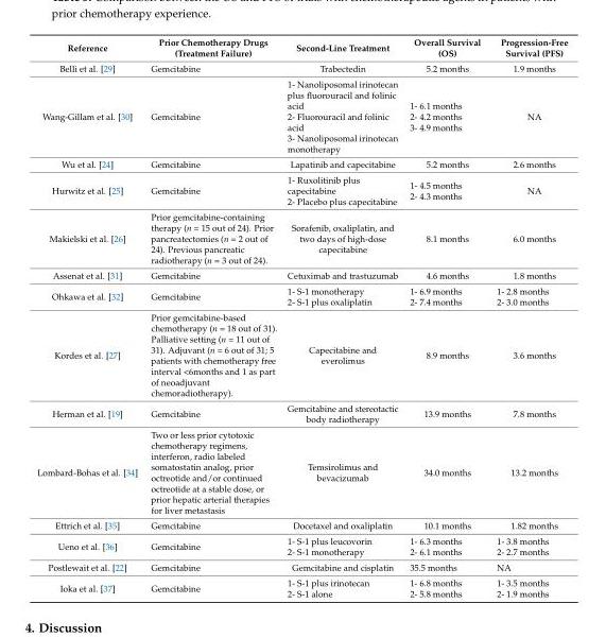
<table><thead><tr><td>Reference</td><td>Prior Chemotherapy Drugs (Treatment Failure)</td><td>Second-Line Treatment</td><td>Overall Survival (OS)</td><td>Progression-Free Survival (PFS)</td></tr></thead><tbody><tr><td>Belli et al. [29]</td><td>Gemcitabine</td><td>Trabectedin</td><td>5.2 months</td><td>1.9 months</td></tr><tr><td>Wang-Gillam et al. [30]</td><td>Gemcitabine</td><td>1- Nanoliposomal irinotecan plus fluorouracil and folinic acid 2- Fluorouracil and folinic acid 3- Nanoliposomal irinotecan monotherapy</td><td>1- 6.1 months 2- 4.2 months 3- 4.9 months</td><td>NA</td></tr><tr><td>Wu et al. [24]</td><td>Gemcitabine</td><td>Lapatinib and capecitabine</td><td>5.2 months</td><td>2.6 months</td></tr><tr><td>Hurwitz et al. [25]</td><td>Gemcitabine</td><td>1- Ruxolitinib plus capecitabine 2- Placebo plus capecitabine</td><td>1- 4.5 months 2- 4.3 months</td><td>NA</td></tr><tr><td>Makielski et al. [26]</td><td>Prior gemcitabine-containing therapy (n = 15 out of 24). Prior pancreatectomies (n = 2 out of 24). Previous pancreatic radiotherapy (n = 3 out of 24).</td><td>Sorafenib, oxaliplatin, and two days of high-dose capecitabine</td><td>8.1 months</td><td>6.0 months</td></tr><tr><td>Assenat et al. [31]</td><td>Gemcitabine</td><td>Cetuximab and trastuzumab</td><td>4.6 months</td><td>1.8 months</td></tr><tr><td>Ohkawa et al. [32]</td><td>Gemcitabine</td><td>1- S-1 monotherapy 2- S-1 plus oxaliplatin</td><td>1- 6.9 months 2- 7.4 months</td><td>1- 2.8 months 2- 3.0 months</td></tr><tr><td>Kordes et al. [27]</td><td>Prior gemcitabine-based chemotherapy (n = 18 out of 31). Palliative setting (n = 11 out of 31). Adjuvant (n = 6 out of 31; 5 patients with chemotherapy free interval &lt;6months and 1 as part of neoadjuvant chemoradiotherapy).</td><td>Capecitabine and everolimus</td><td>8.9 months</td><td>3.6 months</td></tr><tr><td>Herman et al. [19]</td><td>Gemcitabine</td><td>Gemcitabine and stereotactic body radiotherapy</td><td>13.9 months</td><td>7.8 months</td></tr><tr><td>Lombard-Bohas et al. [34]</td><td>Two or less prior cytotoxic chemotherapy regimens, interferon, radio labeled somatostatin analog, prior octreotide and/or continued octreotide at a stable dose, or prior hepatic arterial therapies for liver metastasis</td><td>Temsirolimus and bevacizumab</td><td>34.0 months</td><td>13.2 months</td></tr><tr><td>Ettrich et al. [35]</td><td>Gemcitabine</td><td>Docetaxel and oxaliplatin</td><td>10.1 months</td><td>1.82 months</td></tr><tr><td>Ueno et al. [36]</td><td>Gemcitabine</td><td>1- S-1 plus leucovorin 2- S-1 monotherapy</td><td>1- 6.3 months 2- 6.1 months</td><td>1- 3.8 months 2- 2.7 months</td></tr><tr><td>Postlewait et al. [22]</td><td>Gemcitabine</td><td>Gemcitabine and cisplatin</td><td>35.5 months</td><td>NA</td></tr><tr><td>Ioka et al. [37]</td><td>Gemcitabine</td><td>1- S-1 plus irinotecan 2- S-1 alone</td><td>1- 6.8 months 2- 5.8 months</td><td>1- 3.5 months 2- 1.9 months</td></tr></tbody></table>